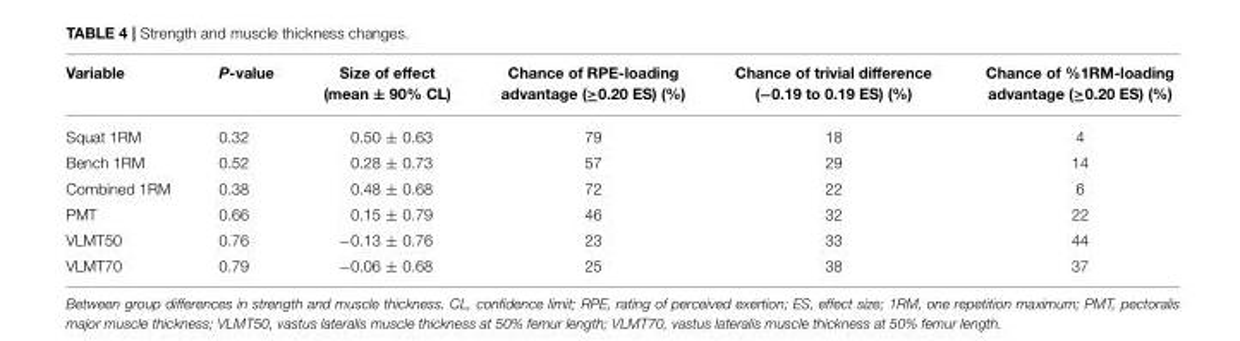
<table><thead><tr><td>Variable</td><td>P-value</td><td>Size of effect (mean ± 90% CL)</td><td>Chance of RPE-loading advantage (≥0.20 ES) (%)</td><td>Chance of trivial difference (−0.19 to 0.19 ES) (%)</td><td>Chance of %1RM-loading advantage (≥0.20 ES) (%)</td></tr></thead><tbody><tr><td>Squat 1RM</td><td>0.32</td><td>0.50 ± 0.63</td><td>79</td><td>18</td><td>4</td></tr><tr><td>Bench 1RM</td><td>0.52</td><td>0.28 ± 0.73</td><td>57</td><td>29</td><td>14</td></tr><tr><td>Combined 1RM</td><td>0.38</td><td>0.48 ± 0.68</td><td>72</td><td>22</td><td>6</td></tr><tr><td>PMT</td><td>0.66</td><td>0.15 ± 0.79</td><td>46</td><td>32</td><td>22</td></tr><tr><td>VLMT50</td><td>0.76</td><td>−0.13 ± 0.76</td><td>23</td><td>33</td><td>44</td></tr><tr><td>VLMT70</td><td>0.79</td><td>−0.06 ± 0.68</td><td>25</td><td>38</td><td>37</td></tr></tbody></table>